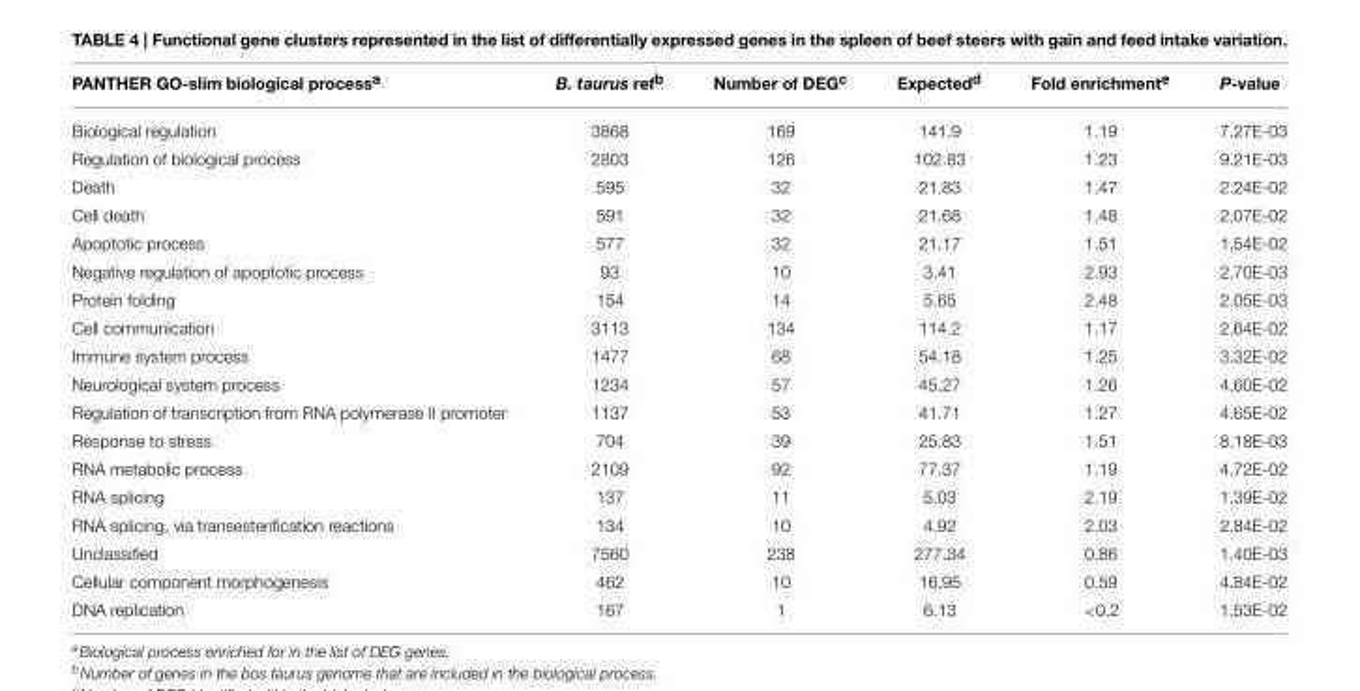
<table><thead><tr><td>PANTHER GO-slim biological process<sup>a</sup></td><td>B. taurus ref<sup>b</sup></td><td>Number of DEG<sup>c</sup></td><td>Expected<sup>d</sup></td><td>Fold enrichment<sup>e</sup></td><td>P-value</td></tr></thead><tbody><tr><td>Biological regulation</td><td>3868</td><td>169</td><td>141.9</td><td>1.19</td><td>7.27E-03</td></tr><tr><td>Regulation of biological process</td><td>2803</td><td>126</td><td>102.83</td><td>1.23</td><td>9.21E-03</td></tr><tr><td>Death</td><td>595</td><td>32</td><td>21.83</td><td>1.47</td><td>2.24E-02</td></tr><tr><td>Cell death</td><td>591</td><td>32</td><td>21.68</td><td>1.48</td><td>2.07E-02</td></tr><tr><td>Apoptotic process</td><td>577</td><td>32</td><td>21.17</td><td>1.51</td><td>1.54E-02</td></tr><tr><td>Negative regulation of apoptotic process</td><td>93</td><td>10</td><td>3.41</td><td>2.93</td><td>2.70E-03</td></tr><tr><td>Protein folding</td><td>154</td><td>14</td><td>5.65</td><td>2.48</td><td>2.05E-03</td></tr><tr><td>Cell communication</td><td>3113</td><td>134</td><td>114.2</td><td>1.17</td><td>2.64E-02</td></tr><tr><td>Immune system process</td><td>1477</td><td>68</td><td>54.18</td><td>1.25</td><td>3.32E-02</td></tr><tr><td>Neurological system process</td><td>1234</td><td>57</td><td>45.27</td><td>1.26</td><td>4.60E-02</td></tr><tr><td>Regulation of transcription from RNA polymerase II promoter</td><td>1137</td><td>53</td><td>41.71</td><td>1.27</td><td>4.65E-02</td></tr><tr><td>Response to stress</td><td>704</td><td>39</td><td>25.83</td><td>1.51</td><td>8.18E-03</td></tr><tr><td>RNA metabolic process</td><td>2109</td><td>92</td><td>77.37</td><td>1.19</td><td>4.72E-02</td></tr><tr><td>RNA splicing</td><td>137</td><td>11</td><td>5.03</td><td>2.19</td><td>1.39E-02</td></tr><tr><td>RNA splicing, via transesterification reactions</td><td>134</td><td>10</td><td>4.92</td><td>2.03</td><td>2.84E-02</td></tr><tr><td>Unclassified</td><td>7560</td><td>238</td><td>277.34</td><td>0.86</td><td>1.40E-03</td></tr><tr><td>Cellular component morphogenesis</td><td>462</td><td>10</td><td>16.95</td><td>0.59</td><td>4.84E-02</td></tr><tr><td>DNA replication</td><td>167</td><td>1</td><td>6.13</td><td>&lt;0.2</td><td>1.53E-02</td></tr></tbody></table>